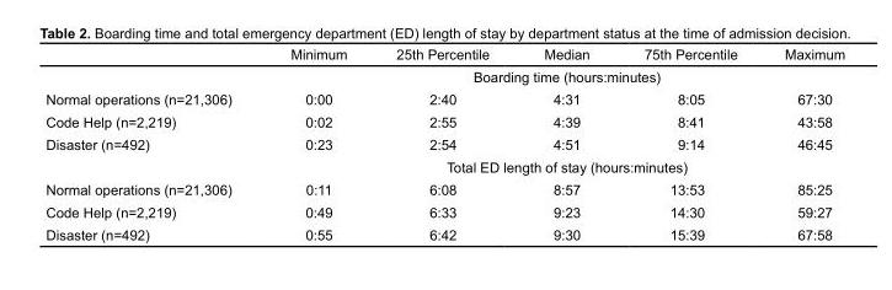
<table><thead><tr><td></td><td>Minimum</td><td>25th Percentile</td><td>Median</td><td>75th Percentile</td><td>Maximum</td></tr></thead><tbody><tr><td></td><td colspan="5">Boarding time (hours:minutes)</td></tr><tr><td>Normal operations (n=21,306)</td><td>0:00</td><td>2:40</td><td>4:31</td><td>8:05</td><td>67:30</td></tr><tr><td>Code Help (n=2,219)</td><td>0:02</td><td>2:55</td><td>4:39</td><td>8:41</td><td>43:58</td></tr><tr><td rowspan="2">Disaster (n=492)</td><td>0:23</td><td>2:54</td><td>4:51</td><td>9:14</td><td>46:45</td></tr><tr><td colspan="5">Total ED length of stay (hours:minutes)</td></tr><tr><td>Normal operations (n=21,306)</td><td>0:11</td><td>6:08</td><td>8:57</td><td>13:53</td><td>85:25</td></tr><tr><td>Code Help (n=2,219)</td><td>0:49</td><td>6:33</td><td>9:23</td><td>14:30</td><td>59:27</td></tr><tr><td>Disaster (n=492)</td><td>0:55</td><td>6:42</td><td>9:30</td><td>15:39</td><td>67:58</td></tr></tbody></table>